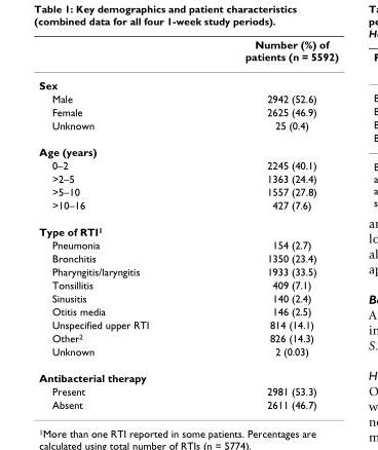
<table><thead><tr><td></td><td>Number (%) of patients (n = 5592)</td></tr></thead><tbody><tr><td colspan="2">Sex</td></tr><tr><td>Male</td><td>2942 (52.6)</td></tr><tr><td>Female</td><td>2625 (46.9)</td></tr><tr><td>Unknown</td><td>25 (0.4)</td></tr><tr><td colspan="2">Age (years)</td></tr><tr><td>0–2</td><td>2245 (40.1)</td></tr><tr><td>&gt;2–5</td><td>1363 (24.4)</td></tr><tr><td>&gt;5–10</td><td>1557 (27.8)</td></tr><tr><td>&gt;10–16</td><td>427 (7.6)</td></tr><tr><td colspan="2">Type of RTI<sup>1</sup></td></tr><tr><td>Pneumonia</td><td>154 (2.7)</td></tr><tr><td>Bronchitis</td><td>1350 (23.4)</td></tr><tr><td>Pharyngitis/laryngitis</td><td>1933 (33.5)</td></tr><tr><td>Tonsillitis</td><td>409 (7.1)</td></tr><tr><td>Sinusitis</td><td>140 (2.4)</td></tr><tr><td>Otitis media</td><td>146 (2.5)</td></tr><tr><td>Unspecified upper RTI</td><td>814 (14.1)</td></tr><tr><td>Other<sup>2</sup></td><td>826 (14.3)</td></tr><tr><td>Unknown</td><td>2 (0.03)</td></tr><tr><td colspan="2">Antibacterial therapy</td></tr><tr><td>Present</td><td>2981 (53.3)</td></tr><tr><td>Absent</td><td>2611 (46.7)</td></tr></tbody></table>